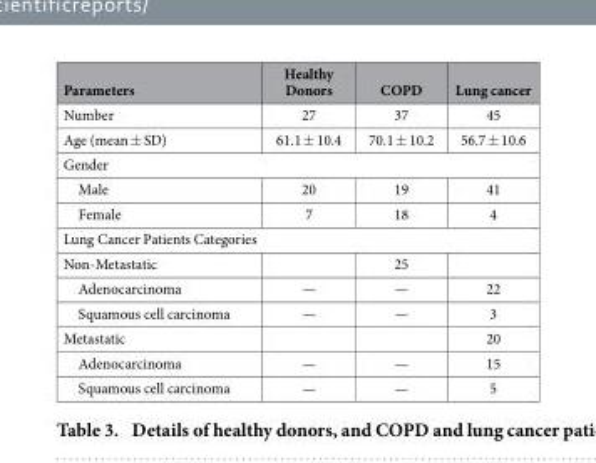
<table><thead><tr><td>Parameters</td><td>Healthy Donors</td><td>COPD</td><td>Lung cancer</td></tr></thead><tbody><tr><td>Number</td><td>27</td><td>37</td><td>45</td></tr><tr><td>Age (mean ± SD)</td><td>61.1 ± 10.4</td><td>70.1 ± 10.2</td><td>56.7 ± 10.6</td></tr><tr><td colspan="4">Gender</td></tr><tr><td>Male</td><td>20</td><td>19</td><td>41</td></tr><tr><td>Female</td><td>7</td><td>18</td><td>4</td></tr><tr><td colspan="4">Lung Cancer Patients Categories</td></tr><tr><td>Non-Metastatic</td><td></td><td>25</td><td></td></tr><tr><td>Adenocarcinoma</td><td>—</td><td>—</td><td>22</td></tr><tr><td>Squamous cell carcinoma</td><td>—</td><td>—</td><td>3</td></tr><tr><td>Metastatic</td><td></td><td></td><td>20</td></tr><tr><td>Adenocarcinoma</td><td>—</td><td>—</td><td>15</td></tr><tr><td>Squamous cell carcinoma</td><td>—</td><td>—</td><td>5</td></tr></tbody></table>